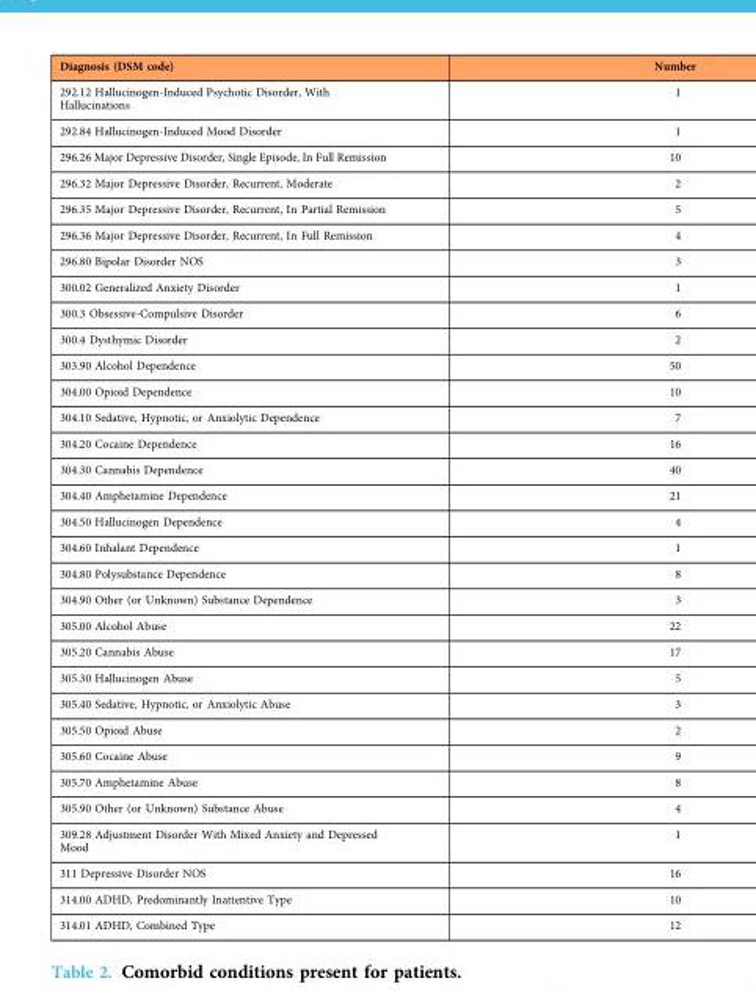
<table><thead><tr><td>Diagnosis (DSM code)</td><td>Number</td></tr></thead><tbody><tr><td>292.12 Hallucinogen-Induced Psychotic Disorder, With Hallucinations</td><td>1</td></tr><tr><td>292.84 Hallucinogen-Induced Mood Disorder</td><td>1</td></tr><tr><td>296.26 Major Depressive Disorder, Single Episode, In Full Remission</td><td>10</td></tr><tr><td>296.32 Major Depressive Disorder, Recurrent, Moderate</td><td>2</td></tr><tr><td>296.35 Major Depressive Disorder, Recurrent, In Partial Remission</td><td>5</td></tr><tr><td>296.36 Major Depressive Disorder, Recurrent, In Full Remission</td><td>4</td></tr><tr><td>296.80 Bipolar Disorder NOS</td><td>3</td></tr><tr><td>300.02 Generalized Anxiety Disorder</td><td>1</td></tr><tr><td>300.3 Obsessive-Compulsive Disorder</td><td>6</td></tr><tr><td>300.4 Dysthymic Disorder</td><td>2</td></tr><tr><td>303.90 Alcohol Dependence</td><td>50</td></tr><tr><td>304.00 Opioid Dependence</td><td>10</td></tr><tr><td>304.10 Sedative, Hypnotic, or Anxiolytic Dependence</td><td>7</td></tr><tr><td>304.20 Cocaine Dependence</td><td>16</td></tr><tr><td>304.30 Cannabis Dependence</td><td>40</td></tr><tr><td>304.40 Amphetamine Dependence</td><td>21</td></tr><tr><td>304.50 Hallucinogen Dependence</td><td>4</td></tr><tr><td>304.60 Inhalant Dependence</td><td>1</td></tr><tr><td>304.80 Polysubstance Dependence</td><td>8</td></tr><tr><td>304.90 Other (or Unknown) Substance Dependence</td><td>3</td></tr><tr><td>305.00 Alcohol Abuse</td><td>22</td></tr><tr><td>305.20 Cannabis Abuse</td><td>17</td></tr><tr><td>305.30 Hallucinogen Abuse</td><td>5</td></tr><tr><td>305.40 Sedative, Hypnotic, or Anxiolytic Abuse</td><td>3</td></tr><tr><td>305.50 Opioid Abuse</td><td>2</td></tr><tr><td>305.60 Cocaine Abuse</td><td>9</td></tr><tr><td>305.70 Amphetamine Abuse</td><td>8</td></tr><tr><td>305.90 Other (or Unknown) Substance Abuse</td><td>4</td></tr><tr><td>309.28 Adjustment Disorder With Mixed Anxiety and Depressed Mood</td><td>1</td></tr><tr><td>311 Depressive Disorder NOS</td><td>16</td></tr><tr><td>314.00 ADHD, Predominantly Inattentive Type</td><td>10</td></tr><tr><td>314.01 ADHD, Combined Type</td><td>12</td></tr></tbody></table>